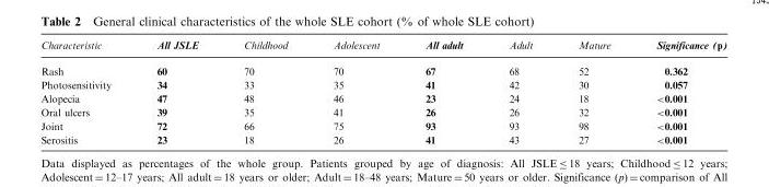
<table><thead><tr><td>Characteristic</td><td>All JSLE</td><td>Childhood</td><td>Adolescent</td><td>All adult</td><td>Adult</td><td>Mature</td><td>Significance (p)</td></tr></thead><tbody><tr><td>Rash</td><td>60</td><td>70</td><td>70</td><td>67</td><td>68</td><td>52</td><td>0.362</td></tr><tr><td>Photosensitivity</td><td>34</td><td>33</td><td>35</td><td>41</td><td>42</td><td>30</td><td>0.057</td></tr><tr><td>Alopecia</td><td>47</td><td>48</td><td>46</td><td>23</td><td>24</td><td>18</td><td>&lt;0.001</td></tr><tr><td>Oral ulcers</td><td>39</td><td>35</td><td>41</td><td>26</td><td>26</td><td>32</td><td>&lt;0.001</td></tr><tr><td>Joint</td><td>72</td><td>66</td><td>75</td><td>93</td><td>93</td><td>98</td><td>&lt;0.001</td></tr><tr><td>Serositis</td><td>23</td><td>18</td><td>26</td><td>41</td><td>43</td><td>27</td><td>&lt;0.001</td></tr></tbody></table>